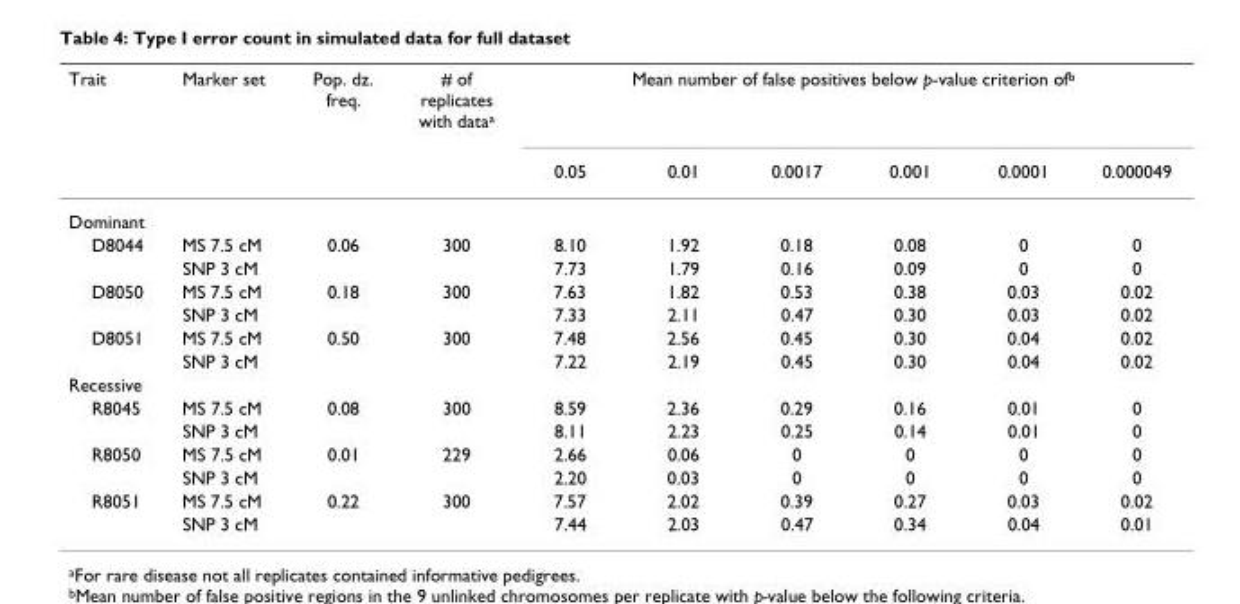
<table><thead><tr><td rowspan="2">Trait</td><td rowspan="2">Marker set</td><td rowspan="2">Pop. dz. freq.</td><td rowspan="2"># of replicates with dataa</td><td colspan="6">Mean number of false positives below p-value criterion ofb</td></tr><tr><td>0.05</td><td>0.01</td><td>0.0017</td><td>0.001</td><td>0.0001</td><td>0.000049</td></tr></thead><tbody><tr><td colspan="10">Dominant</td></tr><tr><td rowspan="2">D8044</td><td>MS 7.5 cM</td><td>0.06</td><td>300</td><td>8.10</td><td>1.92</td><td>0.18</td><td>0.08</td><td>0</td><td>0</td></tr><tr><td>SNP 3 cM</td><td></td><td></td><td>7.73</td><td>1.79</td><td>0.16</td><td>0.09</td><td>0</td><td>0</td></tr><tr><td rowspan="2">D8050</td><td>MS 7.5 cM</td><td>0.18</td><td>300</td><td>7.63</td><td>1.82</td><td>0.53</td><td>0.38</td><td>0.03</td><td>0.02</td></tr><tr><td>SNP 3 cM</td><td></td><td></td><td>7.33</td><td>2.11</td><td>0.47</td><td>0.30</td><td>0.03</td><td>0.02</td></tr><tr><td rowspan="2">D8051</td><td>MS 7.5 cM</td><td>0.50</td><td>300</td><td>7.48</td><td>2.56</td><td>0.45</td><td>0.30</td><td>0.04</td><td>0.02</td></tr><tr><td>SNP 3 cM</td><td></td><td></td><td>7.22</td><td>2.19</td><td>0.45</td><td>0.30</td><td>0.04</td><td>0.02</td></tr><tr><td colspan="10">Recessive</td></tr><tr><td rowspan="2">R8045</td><td>MS 7.5 cM</td><td>0.08</td><td>300</td><td>8.59</td><td>2.36</td><td>0.29</td><td>0.16</td><td>0.01</td><td>0</td></tr><tr><td>SNP 3 cM</td><td></td><td></td><td>8.11</td><td>2.23</td><td>0.25</td><td>0.14</td><td>0.01</td><td>0</td></tr><tr><td rowspan="2">R8050</td><td>MS 7.5 cM</td><td>0.01</td><td>229</td><td>2.66</td><td>0.06</td><td>0</td><td>0</td><td>0</td><td>0</td></tr><tr><td>SNP 3 cM</td><td></td><td></td><td>2.20</td><td>0.03</td><td>0</td><td>0</td><td>0</td><td>0</td></tr><tr><td rowspan="2">R8051</td><td>MS 7.5 cM</td><td>0.22</td><td>300</td><td>7.57</td><td>2.02</td><td>0.39</td><td>0.27</td><td>0.03</td><td>0.02</td></tr><tr><td>SNP 3 cM</td><td></td><td></td><td>7.44</td><td>2.03</td><td>0.47</td><td>0.34</td><td>0.04</td><td>0.01</td></tr></tbody></table>